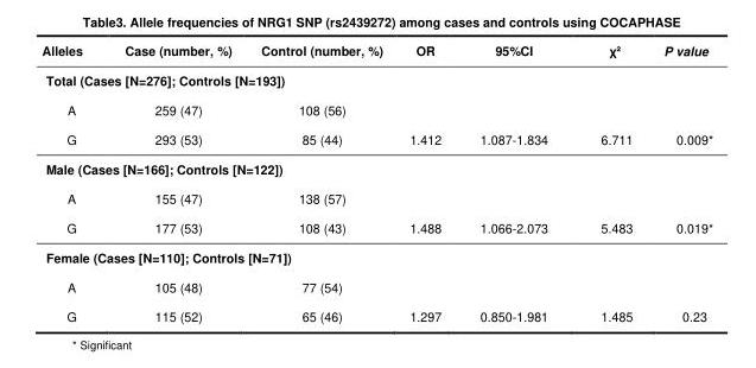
<table><thead><tr><td>Alleles</td><td>Case (number, %)</td><td>Control (number, %)</td><td>OR</td><td>95%CI</td><td>χ²</td><td>P value</td></tr></thead><tbody><tr><td colspan="7">Total (Cases [N=276]; Controls [N=193])</td></tr><tr><td>A</td><td>259 (47)</td><td>108 (56)</td><td></td><td></td><td></td><td></td></tr><tr><td>G</td><td>293 (53)</td><td>85 (44)</td><td>1.412</td><td>1.087-1.834</td><td>6.711</td><td>0.009*</td></tr><tr><td colspan="7">Male (Cases [N=166]; Controls [N=122])</td></tr><tr><td>A</td><td>155 (47)</td><td>138 (57)</td><td></td><td></td><td></td><td></td></tr><tr><td>G</td><td>177 (53)</td><td>108 (43)</td><td>1.488</td><td>1.066-2.073</td><td>5.483</td><td>0.019*</td></tr><tr><td colspan="7">Female (Cases [N=110]; Controls [N=71])</td></tr><tr><td>A</td><td>105 (48)</td><td>77 (54)</td><td></td><td></td><td></td><td></td></tr><tr><td>G</td><td>115 (52)</td><td>65 (46)</td><td>1.297</td><td>0.850-1.981</td><td>1.485</td><td>0.23</td></tr></tbody></table>